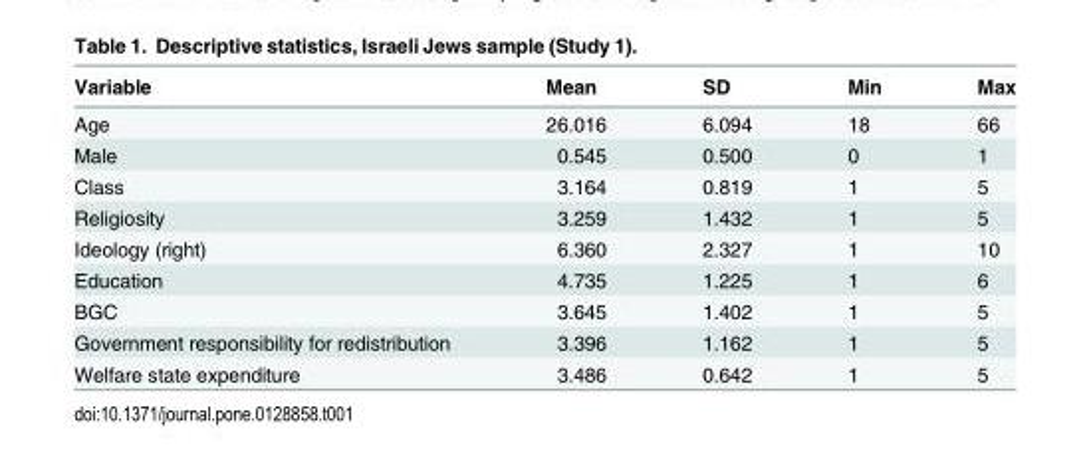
<table><thead><tr><td>Variable</td><td>Mean</td><td>SD</td><td>Min</td><td>Max</td></tr></thead><tbody><tr><td>Age</td><td>26.016</td><td>6.094</td><td>18</td><td>66</td></tr><tr><td>Male</td><td>0.545</td><td>0.500</td><td>0</td><td>1</td></tr><tr><td>Class</td><td>3.164</td><td>0.819</td><td>1</td><td>5</td></tr><tr><td>Religiosity</td><td>3.259</td><td>1.432</td><td>1</td><td>5</td></tr><tr><td>Ideology (right)</td><td>6.360</td><td>2.327</td><td>1</td><td>10</td></tr><tr><td>Education</td><td>4.735</td><td>1.225</td><td>1</td><td>6</td></tr><tr><td>BGC</td><td>3.645</td><td>1.402</td><td>1</td><td>5</td></tr><tr><td>Government responsibility for redistribution</td><td>3.396</td><td>1.162</td><td>1</td><td>5</td></tr><tr><td>Welfare state expenditure</td><td>3.486</td><td>0.642</td><td>1</td><td>5</td></tr></tbody></table>